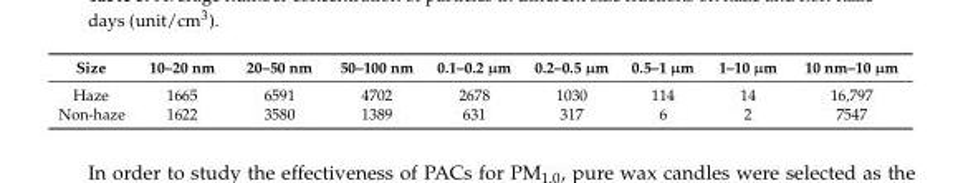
<table><thead><tr><td>Size</td><td>10–20 nm</td><td>20–50 nm</td><td>50–100 nm</td><td>0.1–0.2 µm</td><td>0.2–0.5 µm</td><td>0.5–1 µm</td><td>1–10 µm</td><td>10 nm–10 µm</td></tr></thead><tbody><tr><td>Haze</td><td>1665</td><td>6591</td><td>4702</td><td>2678</td><td>1030</td><td>114</td><td>14</td><td>16,797</td></tr><tr><td>Non-haze</td><td>1622</td><td>3580</td><td>1389</td><td>631</td><td>317</td><td>6</td><td>2</td><td>7547</td></tr></tbody></table>